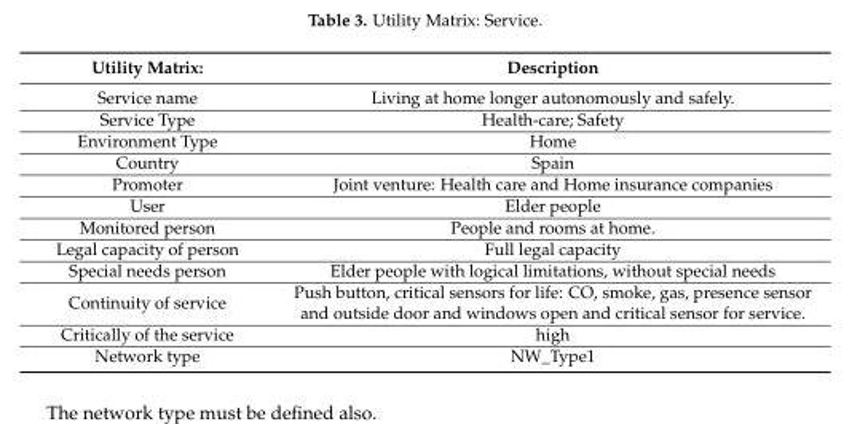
<table><thead><tr><td>Utility Matrix:</td><td>Description</td></tr></thead><tbody><tr><td>Service name</td><td>Living at home longer autonomously and safely.</td></tr><tr><td>Service Type</td><td>Health-care; Safety</td></tr><tr><td>Environment Type</td><td>Home</td></tr><tr><td>Country</td><td>Spain</td></tr><tr><td>Promoter</td><td>Joint venture: Health care and Home insurance companies</td></tr><tr><td>User</td><td>Elder people</td></tr><tr><td>Monitored person</td><td>People and rooms at home.</td></tr><tr><td>Legal capacity of person</td><td>Full legal capacity</td></tr><tr><td>Special needs person</td><td>Elder people with logical limitations, without special needs</td></tr><tr><td>Continuity of service</td><td>Push button, critical sensors for life: CO, smoke, gas, presence sensor and outside door and windows open and critical sensor for service.</td></tr><tr><td>Critically of the service</td><td>high</td></tr><tr><td>Network type</td><td>NW_Type1</td></tr></tbody></table>